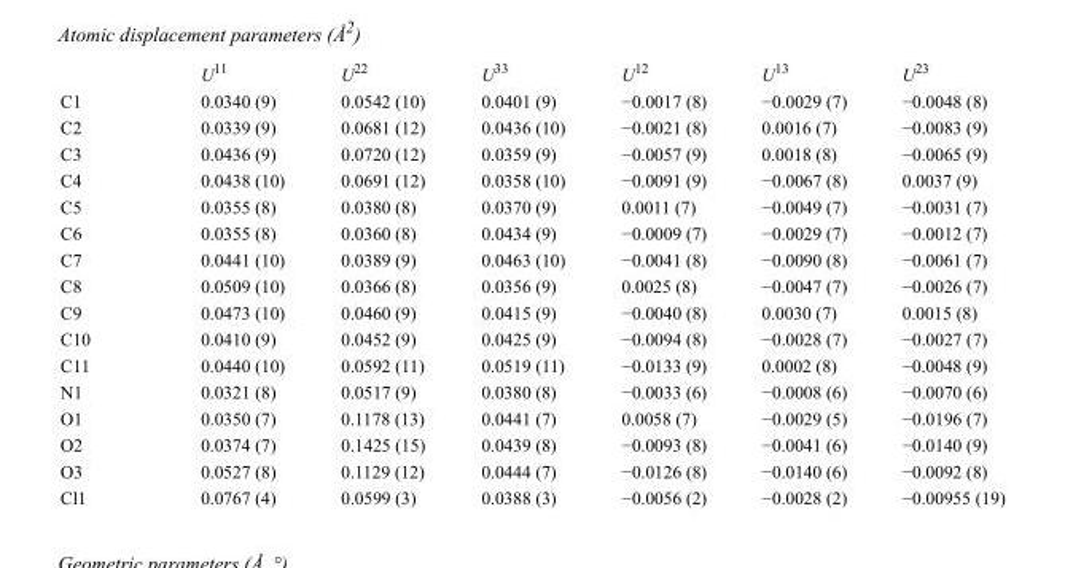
<table><thead><tr><td></td><td>U<sup>11</sup></td><td>U<sup>22</sup></td><td>U<sup>33</sup></td><td>U<sup>12</sup></td><td>U<sup>13</sup></td><td>U<sup>23</sup></td></tr></thead><tbody><tr><td>C1</td><td>0.0340 (9)</td><td>0.0542 (10)</td><td>0.0401 (9)</td><td>−0.0017 (8)</td><td>−0.0029 (7)</td><td>−0.0048 (8)</td></tr><tr><td>C2</td><td>0.0339 (9)</td><td>0.0681 (12)</td><td>0.0436 (10)</td><td>−0.0021 (8)</td><td>0.0016 (7)</td><td>−0.0083 (9)</td></tr><tr><td>C3</td><td>0.0436 (9)</td><td>0.0720 (12)</td><td>0.0359 (9)</td><td>−0.0057 (9)</td><td>0.0018 (8)</td><td>−0.0065 (9)</td></tr><tr><td>C4</td><td>0.0438 (10)</td><td>0.0691 (12)</td><td>0.0358 (10)</td><td>−0.0091 (9)</td><td>−0.0067 (8)</td><td>0.0037 (9)</td></tr><tr><td>C5</td><td>0.0355 (8)</td><td>0.0380 (8)</td><td>0.0370 (9)</td><td>0.0011 (7)</td><td>−0.0049 (7)</td><td>−0.0031 (7)</td></tr><tr><td>C6</td><td>0.0355 (8)</td><td>0.0360 (8)</td><td>0.0434 (9)</td><td>−0.0009 (7)</td><td>−0.0029 (7)</td><td>−0.0012 (7)</td></tr><tr><td>C7</td><td>0.0441 (10)</td><td>0.0389 (9)</td><td>0.0463 (10)</td><td>−0.0041 (8)</td><td>−0.0090 (8)</td><td>−0.0061 (7)</td></tr><tr><td>C8</td><td>0.0509 (10)</td><td>0.0366 (8)</td><td>0.0356 (9)</td><td>0.0025 (8)</td><td>−0.0047 (7)</td><td>−0.0026 (7)</td></tr><tr><td>C9</td><td>0.0473 (10)</td><td>0.0460 (9)</td><td>0.0415 (9)</td><td>−0.0040 (8)</td><td>0.0030 (7)</td><td>0.0015 (8)</td></tr><tr><td>C10</td><td>0.0410 (9)</td><td>0.0452 (9)</td><td>0.0425 (9)</td><td>−0.0094 (8)</td><td>−0.0028 (7)</td><td>−0.0027 (7)</td></tr><tr><td>C11</td><td>0.0440 (10)</td><td>0.0592 (11)</td><td>0.0519 (11)</td><td>−0.0133 (9)</td><td>0.0002 (8)</td><td>−0.0048 (9)</td></tr><tr><td>N1</td><td>0.0321 (8)</td><td>0.0517 (9)</td><td>0.0380 (8)</td><td>−0.0033 (6)</td><td>−0.0008 (6)</td><td>−0.0070 (6)</td></tr><tr><td>O1</td><td>0.0350 (7)</td><td>0.1178 (13)</td><td>0.0441 (7)</td><td>0.0058 (7)</td><td>−0.0029 (5)</td><td>−0.0196 (7)</td></tr><tr><td>O2</td><td>0.0374 (7)</td><td>0.1425 (15)</td><td>0.0439 (8)</td><td>−0.0093 (8)</td><td>−0.0041 (6)</td><td>−0.0140 (9)</td></tr><tr><td>O3</td><td>0.0527 (8)</td><td>0.1129 (12)</td><td>0.0444 (7)</td><td>−0.0126 (8)</td><td>−0.0140 (6)</td><td>−0.0092 (8)</td></tr><tr><td>Cl1</td><td>0.0767 (4)</td><td>0.0599 (3)</td><td>0.0388 (3)</td><td>−0.0056 (2)</td><td>−0.0028 (2)</td><td>−0.00955 (19)</td></tr></tbody></table>